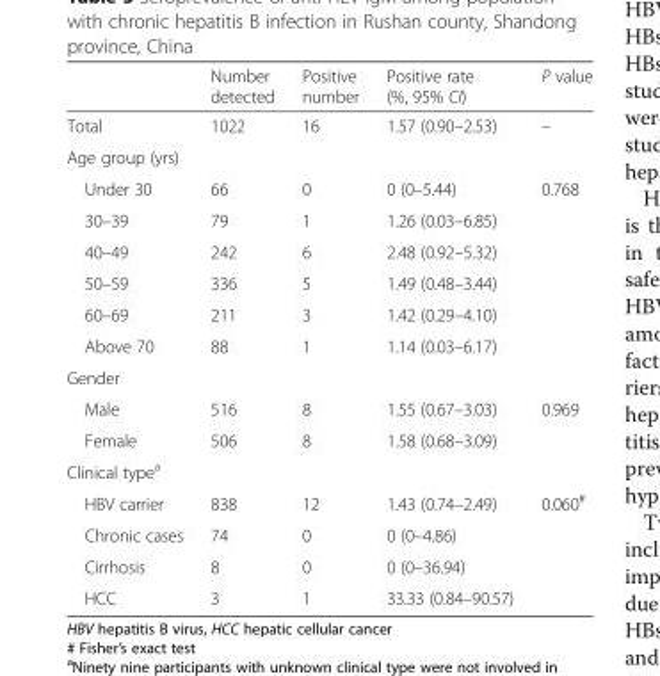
<table><thead><tr><td></td><td>Number detected</td><td>Positive number</td><td>Positive rate (%, 95% CI)</td><td>P value</td></tr></thead><tbody><tr><td>Total</td><td>1022</td><td>16</td><td>1.57 (0.90–2.53)</td><td>–</td></tr><tr><td colspan="5">Age group (yrs)</td></tr><tr><td>Under 30</td><td>66</td><td>0</td><td>0 (0–5.44)</td><td>0.768</td></tr><tr><td>30–39</td><td>79</td><td>1</td><td>1.26 (0.03–6.85)</td><td></td></tr><tr><td>40–49</td><td>242</td><td>6</td><td>2.48 (0.92–5.32)</td><td></td></tr><tr><td>50–59</td><td>336</td><td>5</td><td>1.49 (0.48–3.44)</td><td></td></tr><tr><td>60–69</td><td>211</td><td>3</td><td>1.42 (0.29–4.10)</td><td></td></tr><tr><td>Above 70</td><td>88</td><td>1</td><td>1.14 (0.03–6.17)</td><td></td></tr><tr><td colspan="5">Gender</td></tr><tr><td>Male</td><td>516</td><td>8</td><td>1.55 (0.67–3.03)</td><td>0.969</td></tr><tr><td>Female</td><td>506</td><td>8</td><td>1.58 (0.68–3.09)</td><td></td></tr><tr><td colspan="5">Clinical type<sup>a</sup></td></tr><tr><td>HBV carrier</td><td>838</td><td>12</td><td>1.43 (0.74–2.49)</td><td>0.060<sup>#</sup></td></tr><tr><td>Chronic cases</td><td>74</td><td>0</td><td>0 (0–4.86)</td><td></td></tr><tr><td>Cirrhosis</td><td>8</td><td>0</td><td>0 (0–36.94)</td><td></td></tr><tr><td>HCC</td><td>3</td><td>1</td><td>33.33 (0.84–90.57)</td><td></td></tr></tbody></table>